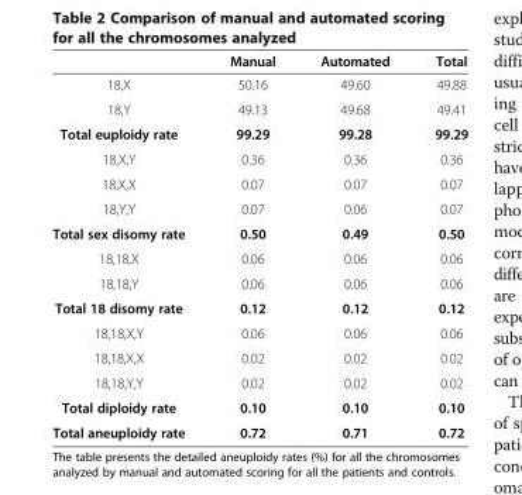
<table><thead><tr><td></td><td>Manual</td><td>Automated</td><td>Total</td></tr></thead><tbody><tr><td>18,X</td><td>50.16</td><td>49.60</td><td>49.88</td></tr><tr><td>18,Y</td><td>49.13</td><td>49.68</td><td>49.41</td></tr><tr><td>Total euploidy rate</td><td>99.29</td><td>99.28</td><td>99.29</td></tr><tr><td>18,X,Y</td><td>0.36</td><td>0.36</td><td>0.36</td></tr><tr><td>18,X,X</td><td>0.07</td><td>0.07</td><td>0.07</td></tr><tr><td>18,Y,Y</td><td>0.07</td><td>0.06</td><td>0.07</td></tr><tr><td>Total sex disomy rate</td><td>0.50</td><td>0.49</td><td>0.50</td></tr><tr><td>18,18,X</td><td>0.06</td><td>0.06</td><td>0.06</td></tr><tr><td>18,18,Y</td><td>0.06</td><td>0.06</td><td>0.06</td></tr><tr><td>Total 18 disomy rate</td><td>0.12</td><td>0.12</td><td>0.12</td></tr><tr><td>18,18,X,Y</td><td>0.06</td><td>0.06</td><td>0.06</td></tr><tr><td>18,18,X,X</td><td>0.02</td><td>0.02</td><td>0.02</td></tr><tr><td>18,18,Y,Y</td><td>0.02</td><td>0.02</td><td>0.02</td></tr><tr><td>Total diploidy rate</td><td>0.10</td><td>0.10</td><td>0.10</td></tr><tr><td>Total aneuploidy rate</td><td>0.72</td><td>0.71</td><td>0.72</td></tr></tbody></table>